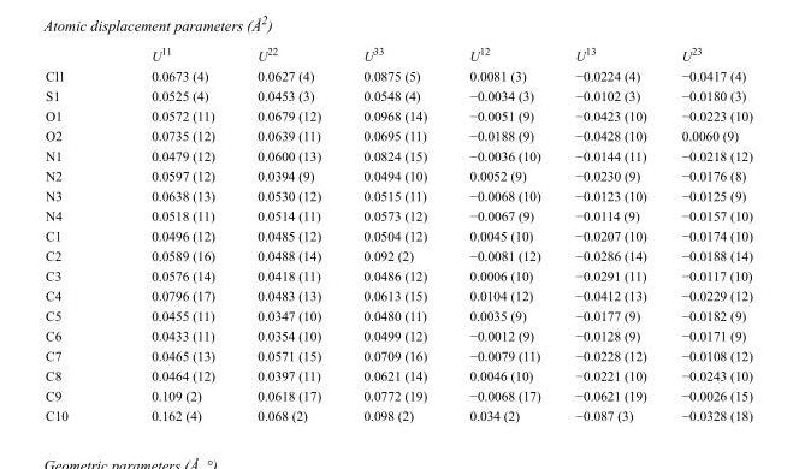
<table><thead><tr><td></td><td>U<sup>11</sup></td><td>U<sup>22</sup></td><td>U<sup>33</sup></td><td>U<sup>12</sup></td><td>U<sup>13</sup></td><td>U<sup>23</sup></td></tr></thead><tbody><tr><td>Cl1</td><td>0.0673 (4)</td><td>0.0627 (4)</td><td>0.0875 (5)</td><td>0.0081 (3)</td><td>−0.0224 (4)</td><td>−0.0417 (4)</td></tr><tr><td>S1</td><td>0.0525 (4)</td><td>0.0453 (3)</td><td>0.0548 (4)</td><td>−0.0034 (3)</td><td>−0.0102 (3)</td><td>−0.0180 (3)</td></tr><tr><td>O1</td><td>0.0572 (11)</td><td>0.0679 (12)</td><td>0.0968 (14)</td><td>−0.0051 (9)</td><td>−0.0423 (10)</td><td>−0.0223 (10)</td></tr><tr><td>O2</td><td>0.0735 (12)</td><td>0.0639 (11)</td><td>0.0695 (11)</td><td>−0.0188 (9)</td><td>−0.0428 (10)</td><td>0.0060 (9)</td></tr><tr><td>N1</td><td>0.0479 (12)</td><td>0.0600 (13)</td><td>0.0824 (15)</td><td>−0.0036 (10)</td><td>−0.0144 (11)</td><td>−0.0218 (12)</td></tr><tr><td>N2</td><td>0.0597 (12)</td><td>0.0394 (9)</td><td>0.0494 (10)</td><td>0.0052 (9)</td><td>−0.0230 (9)</td><td>−0.0176 (8)</td></tr><tr><td>N3</td><td>0.0638 (13)</td><td>0.0530 (12)</td><td>0.0515 (11)</td><td>−0.0068 (10)</td><td>−0.0123 (10)</td><td>−0.0125 (9)</td></tr><tr><td>N4</td><td>0.0518 (11)</td><td>0.0514 (11)</td><td>0.0573 (12)</td><td>−0.0067 (9)</td><td>−0.0114 (9)</td><td>−0.0157 (10)</td></tr><tr><td>C1</td><td>0.0496 (12)</td><td>0.0485 (12)</td><td>0.0504 (12)</td><td>0.0045 (10)</td><td>−0.0207 (10)</td><td>−0.0174 (10)</td></tr><tr><td>C2</td><td>0.0589 (16)</td><td>0.0488 (14)</td><td>0.092 (2)</td><td>−0.0081 (12)</td><td>−0.0286 (14)</td><td>−0.0188 (14)</td></tr><tr><td>C3</td><td>0.0576 (14)</td><td>0.0418 (11)</td><td>0.0486 (12)</td><td>0.0006 (10)</td><td>−0.0291 (11)</td><td>−0.0117 (10)</td></tr><tr><td>C4</td><td>0.0796 (17)</td><td>0.0483 (13)</td><td>0.0613 (15)</td><td>0.0104 (12)</td><td>−0.0412 (13)</td><td>−0.0229 (12)</td></tr><tr><td>C5</td><td>0.0455 (11)</td><td>0.0347 (10)</td><td>0.0480 (11)</td><td>0.0035 (9)</td><td>−0.0177 (9)</td><td>−0.0182 (9)</td></tr><tr><td>C6</td><td>0.0433 (11)</td><td>0.0354 (10)</td><td>0.0499 (12)</td><td>−0.0012 (9)</td><td>−0.0128 (9)</td><td>−0.0171 (9)</td></tr><tr><td>C7</td><td>0.0465 (13)</td><td>0.0571 (15)</td><td>0.0709 (16)</td><td>−0.0079 (11)</td><td>−0.0228 (12)</td><td>−0.0108 (12)</td></tr><tr><td>C8</td><td>0.0464 (12)</td><td>0.0397 (11)</td><td>0.0621 (14)</td><td>0.0046 (10)</td><td>−0.0221 (10)</td><td>−0.0243 (10)</td></tr><tr><td>C9</td><td>0.109 (2)</td><td>0.0618 (17)</td><td>0.0772 (19)</td><td>−0.0068 (17)</td><td>−0.0621 (19)</td><td>−0.0026 (15)</td></tr><tr><td>C10</td><td>0.162 (4)</td><td>0.068 (2)</td><td>0.098 (2)</td><td>0.034 (2)</td><td>−0.087 (3)</td><td>−0.0328 (18)</td></tr></tbody></table>